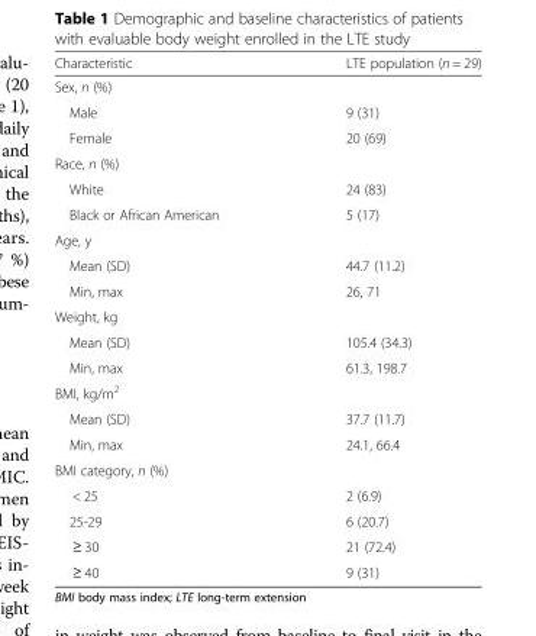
<table><thead><tr><td>Characteristic</td><td>LTE population (n = 29)</td></tr></thead><tbody><tr><td colspan="2">Sex, n (%)</td></tr><tr><td>Male</td><td>9 (31)</td></tr><tr><td>Female</td><td>20 (69)</td></tr><tr><td colspan="2">Race, n (%)</td></tr><tr><td>White</td><td>24 (83)</td></tr><tr><td>Black or African American</td><td>5 (17)</td></tr><tr><td colspan="2">Age, y</td></tr><tr><td>Mean (SD)</td><td>44.7 (11.2)</td></tr><tr><td>Min, max</td><td>26, 71</td></tr><tr><td colspan="2">Weight, kg</td></tr><tr><td>Mean (SD)</td><td>105.4 (34.3)</td></tr><tr><td>Min, max</td><td>61.3, 198.7</td></tr><tr><td colspan="2">BMI, kg/m<sup>2</sup></td></tr><tr><td>Mean (SD)</td><td>37.7 (11.7)</td></tr><tr><td>Min, max</td><td>24.1, 66.4</td></tr><tr><td colspan="2">BMI category, n (%)</td></tr><tr><td>&lt; 25</td><td>2 (6.9)</td></tr><tr><td>25-29</td><td>6 (20.7)</td></tr><tr><td>≥ 30</td><td>21 (72.4)</td></tr><tr><td>≥ 40</td><td>9 (31)</td></tr></tbody></table>